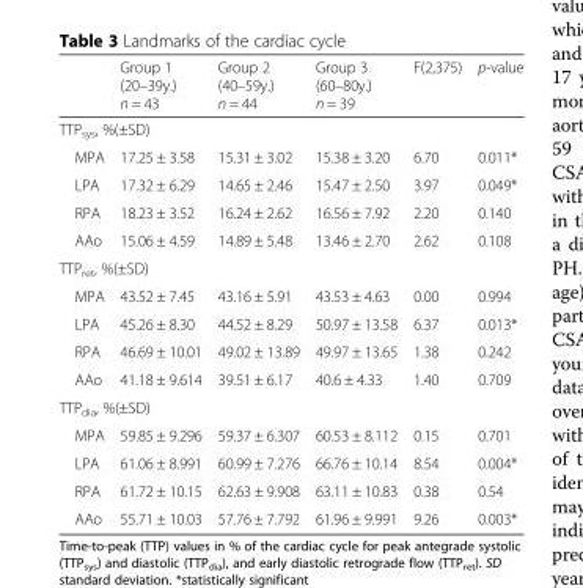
<table><thead><tr><td></td><td>Group 1 (20–39y.) n = 43</td><td>Group 2 (40–59y.) n = 44</td><td>Group 3 (60–80y.) n = 39</td><td>F(2,375)</td><td>p-value</td></tr></thead><tbody><tr><td colspan="6">TTP<sub>sys</sub>, %(±SD)</td></tr><tr><td>MPA</td><td>17.25 ± 3.58</td><td>15.31 ± 3.02</td><td>15.38 ± 3.20</td><td>6.70</td><td>0.011*</td></tr><tr><td>LPA</td><td>17.32 ± 6.29</td><td>14.65 ± 2.46</td><td>15.47 ± 2.50</td><td>3.97</td><td>0.049*</td></tr><tr><td>RPA</td><td>18.23 ± 3.52</td><td>16.24 ± 2.62</td><td>16.56 ± 7.92</td><td>2.20</td><td>0.140</td></tr><tr><td>AAo</td><td>15.06 ± 4.59</td><td>14.89 ± 5.48</td><td>13.46 ± 2.70</td><td>2.62</td><td>0.108</td></tr><tr><td colspan="6">TTP<sub>ret</sub>, %(±SD)</td></tr><tr><td>MPA</td><td>43.52 ± 7.45</td><td>43.16 ± 5.91</td><td>43.53 ± 4.63</td><td>0.00</td><td>0.994</td></tr><tr><td>LPA</td><td>45.26 ± 8.30</td><td>44.52 ± 8.29</td><td>50.97 ± 13.58</td><td>6.37</td><td>0.013*</td></tr><tr><td>RPA</td><td>46.69 ± 10.01</td><td>49.02 ± 13.89</td><td>49.97 ± 13.65</td><td>1.38</td><td>0.242</td></tr><tr><td>AAo</td><td>41.18 ± 9.614</td><td>39.51 ± 6.17</td><td>40.6 ± 4.33</td><td>1.40</td><td>0.709</td></tr><tr><td colspan="6">TTP<sub>dia</sub>, %(±SD)</td></tr><tr><td>MPA</td><td>59.85 ± 9.296</td><td>59.37 ± 6.307</td><td>60.53 ± 8.112</td><td>0.15</td><td>0.701</td></tr><tr><td>LPA</td><td>61.06 ± 8.991</td><td>60.99 ± 7.276</td><td>66.76 ± 10.14</td><td>8.54</td><td>0.004*</td></tr><tr><td>RPA</td><td>61.72 ± 10.15</td><td>62.63 ± 9.908</td><td>63.11 ± 10.83</td><td>0.38</td><td>0.54</td></tr><tr><td>AAo</td><td>55.71 ± 10.03</td><td>57.76 ± 7.792</td><td>61.96 ± 9.991</td><td>9.26</td><td>0.003*</td></tr></tbody></table>